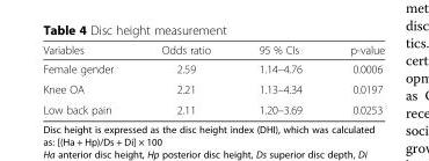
<table><thead><tr><td>Variables</td><td>Odds ratio</td><td>95 % CIs</td><td>p-value</td></tr></thead><tbody><tr><td>Female gender</td><td>2.59</td><td>1.14–4.76</td><td>0.0006</td></tr><tr><td>Knee OA</td><td>2.21</td><td>1.13–4.34</td><td>0.0197</td></tr><tr><td>Low back pain</td><td>2.11</td><td>1.20–3.69</td><td>0.0253</td></tr></tbody></table>